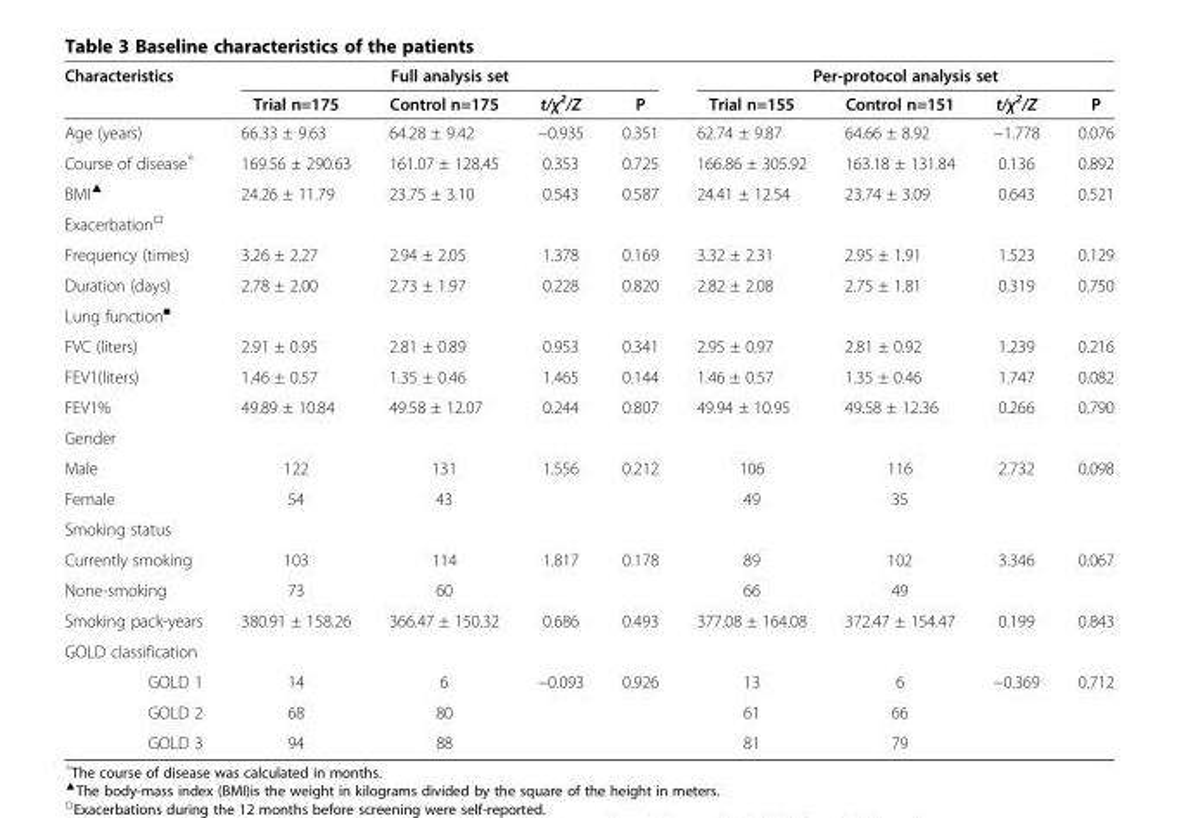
<table><thead><tr><td rowspan="2">Characteristics</td><td colspan="4">Full analysis set</td><td colspan="4">Per-protocol analysis set</td></tr><tr><td>Trial n=175</td><td>Control n=175</td><td>t/χ<sup>2</sup>/Z</td><td>P</td><td>Trial n=155</td><td>Control n=151</td><td>t/χ<sup>2</sup>/Z</td><td>P</td></tr></thead><tbody><tr><td>Age (years)</td><td>66.33 ± 9.63</td><td>64.28 ± 9.42</td><td>−0.935</td><td>0.351</td><td>62.74 ± 9.87</td><td>64.66 ± 8.92</td><td>−1.778</td><td>0.076</td></tr><tr><td>Course of disease<sup>△</sup></td><td>169.56 ± 290.63</td><td>161.07 ± 128.45</td><td>0.353</td><td>0.725</td><td>166.86 ± 305.92</td><td>163.18 ± 131.84</td><td>0.136</td><td>0.892</td></tr><tr><td>BMI<sup>▲</sup></td><td>24.26 ± 11.79</td><td>23.75 ± 3.10</td><td>0.543</td><td>0.587</td><td>24.41 ± 12.54</td><td>23.74 ± 3.09</td><td>0.643</td><td>0.521</td></tr><tr><td colspan="9">Exacerbation<sup>□</sup></td></tr><tr><td>Frequency (times)</td><td>3.26 ± 2.27</td><td>2.94 ± 2.05</td><td>1.378</td><td>0.169</td><td>3.32 ± 2.31</td><td>2.95 ± 1.91</td><td>1.523</td><td>0.129</td></tr><tr><td>Duration (days)</td><td>2.78 ± 2.00</td><td>2.73 ± 1.97</td><td>0.228</td><td>0.820</td><td>2.82 ± 2.08</td><td>2.75 ± 1.81</td><td>0.319</td><td>0.750</td></tr><tr><td colspan="9">Lung function<sup>■</sup></td></tr><tr><td>FVC (liters)</td><td>2.91 ± 0.95</td><td>2.81 ± 0.89</td><td>0.953</td><td>0.341</td><td>2.95 ± 0.97</td><td>2.81 ± 0.92</td><td>1.239</td><td>0.216</td></tr><tr><td>FEV1(liters)</td><td>1.46 ± 0.57</td><td>1.35 ± 0.46</td><td>1.465</td><td>0.144</td><td>1.46 ± 0.57</td><td>1.35 ± 0.46</td><td>1.747</td><td>0.082</td></tr><tr><td>FEV1%</td><td>49.89 ± 10.84</td><td>49.58 ± 12.07</td><td>0.244</td><td>0.807</td><td>49.94 ± 10.95</td><td>49.58 ± 12.36</td><td>0.266</td><td>0.790</td></tr><tr><td colspan="9">Gender</td></tr><tr><td>Male</td><td>122</td><td>131</td><td rowspan="2">1.556</td><td rowspan="2">0.212</td><td>106</td><td>116</td><td rowspan="2">2.732</td><td rowspan="2">0.098</td></tr><tr><td>Female</td><td>54</td><td>43</td><td>49</td><td>35</td></tr><tr><td colspan="9">Smoking status</td></tr><tr><td>Currently smoking</td><td>103</td><td>114</td><td rowspan="2">1.817</td><td rowspan="2">0.178</td><td>89</td><td>102</td><td rowspan="2">3.346</td><td rowspan="2">0.067</td></tr><tr><td>None-smoking</td><td>73</td><td>60</td><td>66</td><td>49</td></tr><tr><td>Smoking pack-years</td><td>380.91 ± 158.26</td><td>366.47 ± 150.32</td><td>0.686</td><td>0.493</td><td>377.08 ± 164.08</td><td>372.47 ± 154.47</td><td>0.199</td><td>0.843</td></tr><tr><td colspan="9">GOLD classification</td></tr><tr><td>GOLD 1</td><td>14</td><td>6</td><td rowspan="2">−0.093</td><td rowspan="2">0.926</td><td>13</td><td>6</td><td rowspan="2">−0.369</td><td rowspan="2">0.712</td></tr><tr><td>GOLD 2</td><td>68</td><td>80</td><td>61</td><td>66</td></tr><tr><td>GOLD 3</td><td>94</td><td>88</td><td></td><td></td><td>81</td><td>79</td><td></td><td></td></tr></tbody></table>